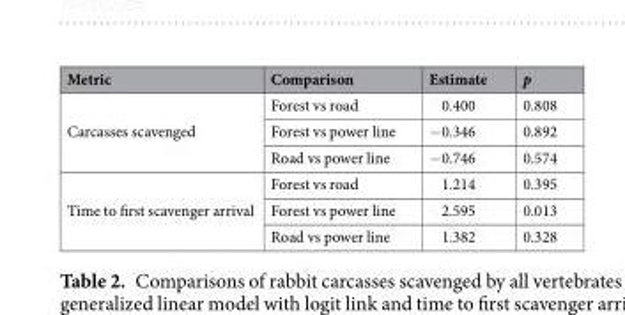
<table><thead><tr><td>Metric</td><td>Comparison</td><td>Estimate</td><td>p</td></tr></thead><tbody><tr><td rowspan="3">Carcasses scavenged</td><td>Forest vs road</td><td>0.400</td><td>0.808</td></tr><tr><td>Forest vs power line</td><td>−0.346</td><td>0.892</td></tr><tr><td>Road vs power line</td><td>−0.746</td><td>0.574</td></tr><tr><td rowspan="3">Time to first scavenger arrival</td><td>Forest vs road</td><td>1.214</td><td>0.395</td></tr><tr><td>Forest vs power line</td><td>2.595</td><td>0.013</td></tr><tr><td>Road vs power line</td><td>1.382</td><td>0.328</td></tr></tbody></table>